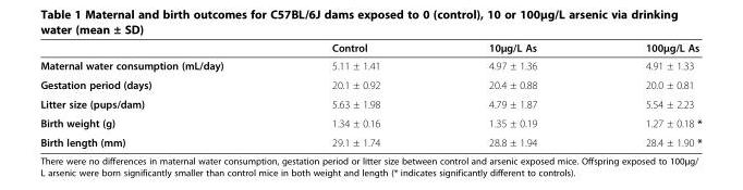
<table><thead><tr><td></td><td>Control</td><td>10μg/L As</td><td>100μg/L As</td></tr></thead><tbody><tr><td>Maternal water consumption (mL/day)</td><td>5.11 ± 1.41</td><td>4.97 ± 1.36</td><td>4.91 ± 1.33</td></tr><tr><td>Gestation period (days)</td><td>20.1 ± 0.92</td><td>20.4 ± 0.88</td><td>20.0 ± 0.81</td></tr><tr><td>Litter size (pups/dam)</td><td>5.63 ± 1.98</td><td>4.79 ± 1.87</td><td>5.54 ± 2.23</td></tr><tr><td>Birth weight (g)</td><td>1.34 ± 0.16</td><td>1.35 ± 0.19</td><td>1.27 ± 0.18 *</td></tr><tr><td>Birth length (mm)</td><td>29.1 ± 1.74</td><td>28.8 ± 1.94</td><td>28.4 ± 1.90 *</td></tr></tbody></table>